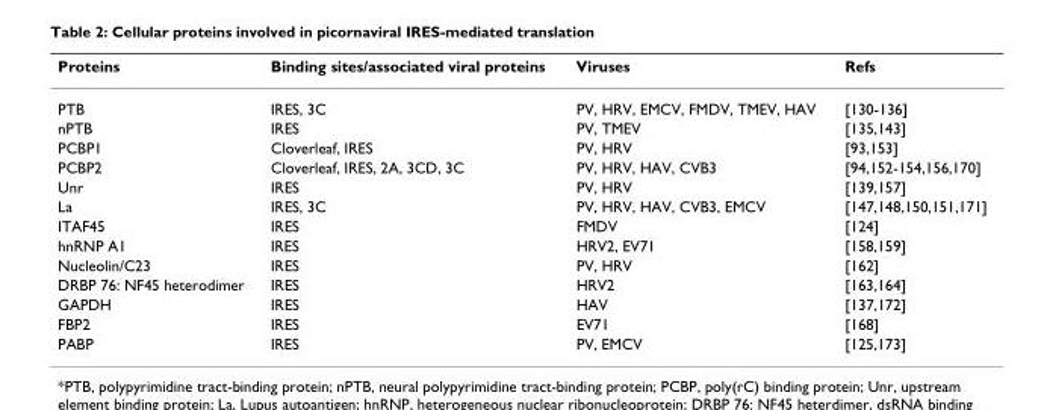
<table><thead><tr><td>Proteins</td><td>Binding sites/associated viral proteins</td><td>Viruses</td><td>Refs</td></tr></thead><tbody><tr><td>PTB</td><td>IRES, 3C</td><td>PV, HRV, EMCV, FMDV, TMEV, HAV</td><td>[130-136]</td></tr><tr><td>nPTB</td><td>IRES</td><td>PV, TMEV</td><td>[135,143]</td></tr><tr><td>PCBP1</td><td>Cloverleaf, IRES</td><td>PV, HRV</td><td>[93,153]</td></tr><tr><td>PCBP2</td><td>Cloverleaf, IRES, 2A, 3CD, 3C</td><td>PV, HRV, HAV, CVB3</td><td>[94,152-154,156,170]</td></tr><tr><td>Unr</td><td>IRES</td><td>PV, HRV</td><td>[139,157]</td></tr><tr><td>La</td><td>IRES, 3C</td><td>PV, HRV, HAV, CVB3, EMCV</td><td>[147,148,150,151,171]</td></tr><tr><td>ITAF45</td><td>IRES</td><td>FMDV</td><td>[124]</td></tr><tr><td>hnRNP A1</td><td>IRES</td><td>HRV2, EV71</td><td>[158,159]</td></tr><tr><td>Nucleolin/C23</td><td>IRES</td><td>PV, HRV</td><td>[162]</td></tr><tr><td>DRBP 76: NF45 heterodimer</td><td>IRES</td><td>HRV2</td><td>[163,164]</td></tr><tr><td>GAPDH</td><td>IRES</td><td>HAV</td><td>[137,172]</td></tr><tr><td>FBP2</td><td>IRES</td><td>EV71</td><td>[168]</td></tr><tr><td>PABP</td><td>IRES</td><td>PV, EMCV</td><td>[125,173]</td></tr></tbody></table>